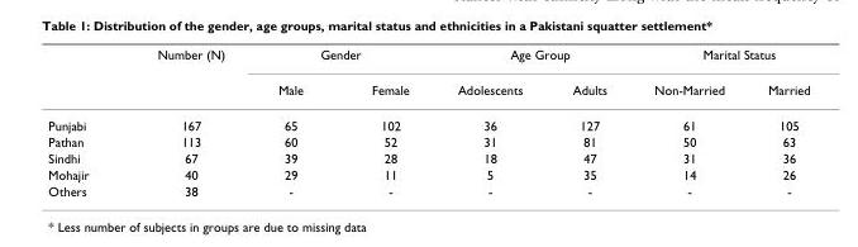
<table><thead><tr><td rowspan="2"></td><td rowspan="2">Number (N)</td><td colspan="2">Gender</td><td colspan="2">Age Group</td><td colspan="2">Marital Status</td></tr><tr><td>Male</td><td>Female</td><td>Adolescents</td><td>Adults</td><td>Non-Married</td><td>Married</td></tr></thead><tbody><tr><td>Punjabi</td><td>167</td><td>65</td><td>102</td><td>36</td><td>127</td><td>61</td><td>105</td></tr><tr><td>Pathan</td><td>113</td><td>60</td><td>52</td><td>31</td><td>81</td><td>50</td><td>63</td></tr><tr><td>Sindhi</td><td>67</td><td>39</td><td>28</td><td>18</td><td>47</td><td>31</td><td>36</td></tr><tr><td>Mohajir</td><td>40</td><td>29</td><td>11</td><td>5</td><td>35</td><td>14</td><td>26</td></tr><tr><td>Others</td><td>38</td><td>-</td><td>-</td><td>-</td><td>-</td><td>-</td><td>-</td></tr></tbody></table>